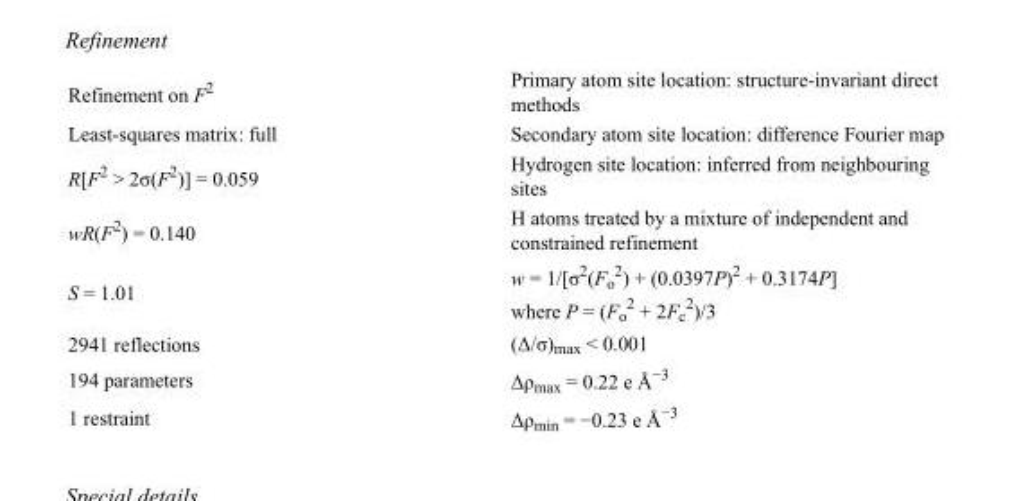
<table><tbody><tr><td>Refinement on F<sup>2</sup></td><td>Primary atom site location: structure-invariant direct methods</td></tr><tr><td>Least-squares matrix: full</td><td>Secondary atom site location: difference Fourier map</td></tr><tr><td>R[F<sup>2</sup> &gt; 2σ(F<sup>2</sup>)] = 0.059</td><td>Hydrogen site location: inferred from neighbouring sites</td></tr><tr><td>wR(F<sup>2</sup>) = 0.140</td><td>H atoms treated by a mixture of independent and constrained refinement</td></tr><tr><td>S = 1.01</td><td>w = 1/[σ<sup>2</sup>(F<sub>o</sub> <sup>2</sup>) + (0.0397P)<sup>2</sup> + 0.3174P] where P = (F<sub>o</sub> <sup>2</sup> + 2F<sub>c</sub> <sup>2</sup>)/3</td></tr><tr><td>2941 reflections</td><td>(Δ/σ)<sub>max</sub> &lt; 0.001</td></tr><tr><td>194 parameters</td><td>Δρ<sub>max</sub> = 0.22 e Å<sup>−3</sup></td></tr><tr><td>1 restraint</td><td>Δρ<sub>min</sub> = −0.23 e Å<sup>−3</sup></td></tr></tbody></table>